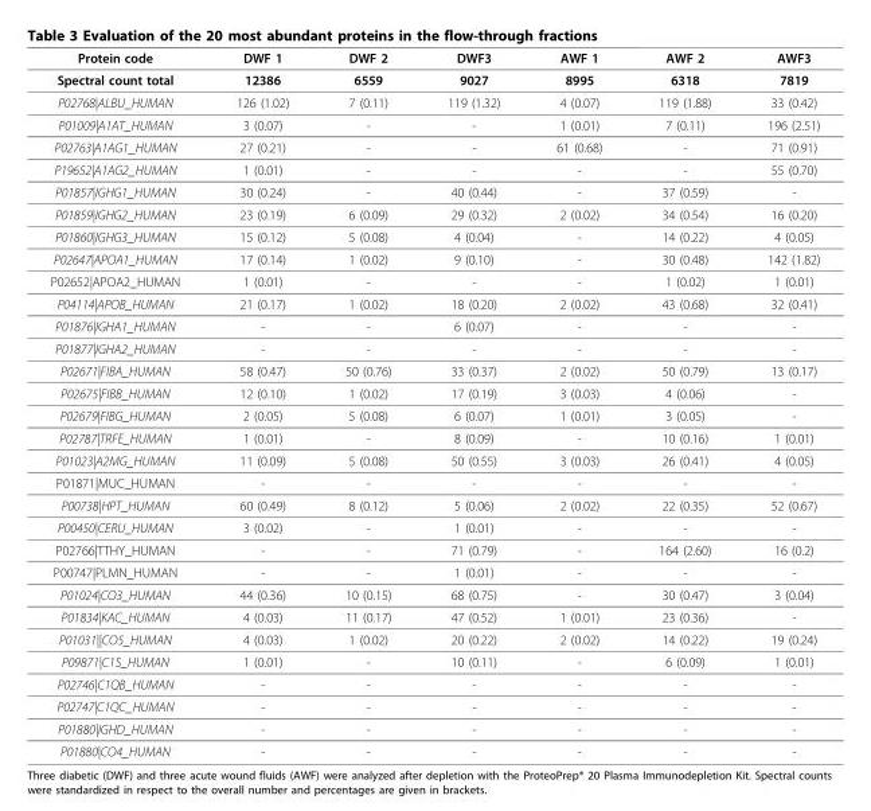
<table><thead><tr><td>Protein code</td><td>DWF 1</td><td>DWF 2</td><td>DWF3</td><td>AWF 1</td><td>AWF 2</td><td>AWF3</td></tr></thead><tbody><tr><td>Spectral count total</td><td>12386</td><td>6559</td><td>9027</td><td>8995</td><td>6318</td><td>7819</td></tr><tr><td>P02768|ALBU_HUMAN</td><td>126 (1.02)</td><td>7 (0.11)</td><td>119 (1.32)</td><td>4 (0.07)</td><td>119 (1.88)</td><td>33 (0.42)</td></tr><tr><td>P01009|A1AT_HUMAN</td><td>3 (0.07)</td><td>-</td><td>-</td><td>1 (0.01)</td><td>7 (0.11)</td><td>196 (2.51)</td></tr><tr><td>P02763|A1AG1_HUMAN</td><td>27 (0.21)</td><td>-</td><td>-</td><td>61 (0.68)</td><td>-</td><td>71 (0.91)</td></tr><tr><td>P19652|A1AG2_HUMAN</td><td>1 (0.01)</td><td>-</td><td>-</td><td>-</td><td>-</td><td>55 (0.70)</td></tr><tr><td>P01857|IGHG1_HUMAN</td><td>30 (0.24)</td><td>-</td><td>40 (0.44)</td><td>-</td><td>37 (0.59)</td><td>-</td></tr><tr><td>P01859|IGHG2_HUMAN</td><td>23 (0.19)</td><td>6 (0.09)</td><td>29 (0.32)</td><td>2 (0.02)</td><td>34 (0.54)</td><td>16 (0.20)</td></tr><tr><td>P01860|IGHG3_HUMAN</td><td>15 (0.12)</td><td>5 (0.08)</td><td>4 (0.04)</td><td>-</td><td>14 (0.22)</td><td>4 (0.05)</td></tr><tr><td>P02647|APOA1_HUMAN</td><td>17 (0.14)</td><td>1 (0.02)</td><td>9 (0.10)</td><td>-</td><td>30 (0.48)</td><td>142 (1.82)</td></tr><tr><td>P02652|APOA2_HUMAN</td><td>1 (0.01)</td><td>-</td><td>-</td><td>-</td><td>1 (0.02)</td><td>1 (0.01)</td></tr><tr><td>P04114|APOB_HUMAN</td><td>21 (0.17)</td><td>1 (0.02)</td><td>18 (0.20)</td><td>2 (0.02)</td><td>43 (0.68)</td><td>32 (0.41)</td></tr><tr><td>P01876|IGHA1_HUMAN</td><td>-</td><td>-</td><td>6 (0.07)</td><td>-</td><td>-</td><td>-</td></tr><tr><td>P01877|IGHA2_HUMAN</td><td>-</td><td>-</td><td>-</td><td>-</td><td>-</td><td>-</td></tr><tr><td>P02671|FIBA_HUMAN</td><td>58 (0.47)</td><td>50 (0.76)</td><td>33 (0.37)</td><td>2 (0.02)</td><td>50 (0.79)</td><td>13 (0.17)</td></tr><tr><td>P02675|FIBB_HUMAN</td><td>12 (0.10)</td><td>1 (0.02)</td><td>17 (0.19)</td><td>3 (0.03)</td><td>4 (0.06)</td><td>-</td></tr><tr><td>P02679|FIBG_HUMAN</td><td>2 (0.05)</td><td>5 (0.08)</td><td>6 (0.07)</td><td>1 (0.01)</td><td>3 (0.05)</td><td>-</td></tr><tr><td>P02787|TRFE_HUMAN</td><td>1 (0.01)</td><td>-</td><td>8 (0.09)</td><td>-</td><td>10 (0.16)</td><td>1 (0.01)</td></tr><tr><td>P01023|A2MG_HUMAN</td><td>11 (0.09)</td><td>5 (0.08)</td><td>50 (0.55)</td><td>3 (0.03)</td><td>26 (0.41)</td><td>4 (0.05)</td></tr><tr><td>P01871|MUC_HUMAN</td><td>-</td><td>-</td><td>-</td><td>-</td><td>-</td><td>-</td></tr><tr><td>P00738|HPT_HUMAN</td><td>60 (0.49)</td><td>8 (0.12)</td><td>5 (0.06)</td><td>2 (0.02)</td><td>22 (0.35)</td><td>52 (0.67)</td></tr><tr><td>P00450|CERU_HUMAN</td><td>3 (0.02)</td><td>-</td><td>1 (0.01)</td><td>-</td><td>-</td><td>-</td></tr><tr><td>P02766|TTHY_HUMAN</td><td>-</td><td>-</td><td>71 (0.79)</td><td>-</td><td>164 (2.60)</td><td>16 (0.2)</td></tr><tr><td>P00747|PLMN_HUMAN</td><td>-</td><td>-</td><td>1 (0.01)</td><td>-</td><td>-</td><td>-</td></tr><tr><td>P01024|CO3_HUMAN</td><td>44 (0.36)</td><td>10 (0.15)</td><td>68 (0.75)</td><td>-</td><td>30 (0.47)</td><td>3 (0.04)</td></tr><tr><td>P01834|KAC_HUMAN</td><td>4 (0.03)</td><td>11 (0.17)</td><td>47 (0.52)</td><td>1 (0.01)</td><td>23 (0.36)</td><td>-</td></tr><tr><td>P01031||CO5_HUMAN</td><td>4 (0.03)</td><td>1 (0.02)</td><td>20 (0.22)</td><td>2 (0.02)</td><td>14 (0.22)</td><td>19 (0.24)</td></tr><tr><td>P09871|C1S_HUMAN</td><td>1 (0.01)</td><td>-</td><td>10 (0.11)</td><td>-</td><td>6 (0.09)</td><td>1 (0.01)</td></tr><tr><td>P02746|C1QB_HUMAN</td><td>-</td><td>-</td><td>-</td><td>-</td><td>-</td><td>-</td></tr><tr><td>P02747|C1QC_HUMAN</td><td>-</td><td>-</td><td>-</td><td>-</td><td>-</td><td>-</td></tr><tr><td>P01880|IGHD_HUMAN</td><td>-</td><td>-</td><td>-</td><td>-</td><td>-</td><td>-</td></tr><tr><td>P01880|CO4_HUMAN</td><td>-</td><td>-</td><td>-</td><td>-</td><td>-</td><td>-</td></tr></tbody></table>